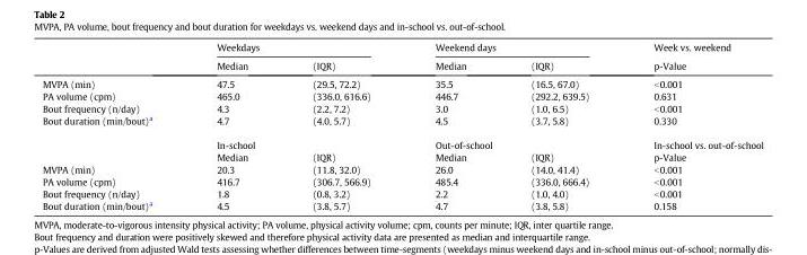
<table><thead><tr><td rowspan="2"></td><td colspan="2">Weekdays</td><td colspan="2">Weekend days</td><td rowspan="2">Week vs. weekend p-Value</td></tr><tr><td>Median</td><td>(IQR)</td><td>Median</td><td>(IQR)</td></tr></thead><tbody><tr><td>MVPA (min)</td><td>47.5</td><td>(29.5, 72.2)</td><td>35.5</td><td>(16.5, 67.0)</td><td>&lt;0.001</td></tr><tr><td>PA volume (cpm)</td><td>465.0</td><td>(336.0, 616.6)</td><td>446.7</td><td>(292.2, 639.5)</td><td>0.631</td></tr><tr><td>Bout frequency (n/day)</td><td>4.3</td><td>(2.2, 7.2)</td><td>3.0</td><td>(1.0, 6.5)</td><td>&lt;0.001</td></tr><tr><td rowspan="3">Bout duration (min/bout)<sup>a</sup></td><td>4.7</td><td>(4.0, 5.7)</td><td>4.5</td><td>(3.7, 5.8)</td><td>0.330</td></tr><tr><td colspan="2">In-school</td><td colspan="2">Out-of-school</td><td>In-school vs. out-of-school</td></tr><tr><td>Median</td><td>(IQR)</td><td>Median</td><td>(IQR)</td><td>p-Value</td></tr><tr><td>MVPA (min)</td><td>20.3</td><td>(11.8, 32.0)</td><td>26.0</td><td>(14.0, 41.4)</td><td>&lt;0.001</td></tr><tr><td>PA volume (cpm)</td><td>416.7</td><td>(306.7, 566.9)</td><td>485.4</td><td>(336.0, 666.4)</td><td>&lt;0.001</td></tr><tr><td>Bout frequency (n/day)</td><td>1.8</td><td>(0.8, 3.2)</td><td>2.2</td><td>(1.0, 4.0)</td><td>&lt;0.001</td></tr><tr><td>Bout duration (min/bout)<sup>a</sup></td><td>4.5</td><td>(3.8, 5.7)</td><td>4.7</td><td>(3.8, 5.8)</td><td>0.158</td></tr></tbody></table>